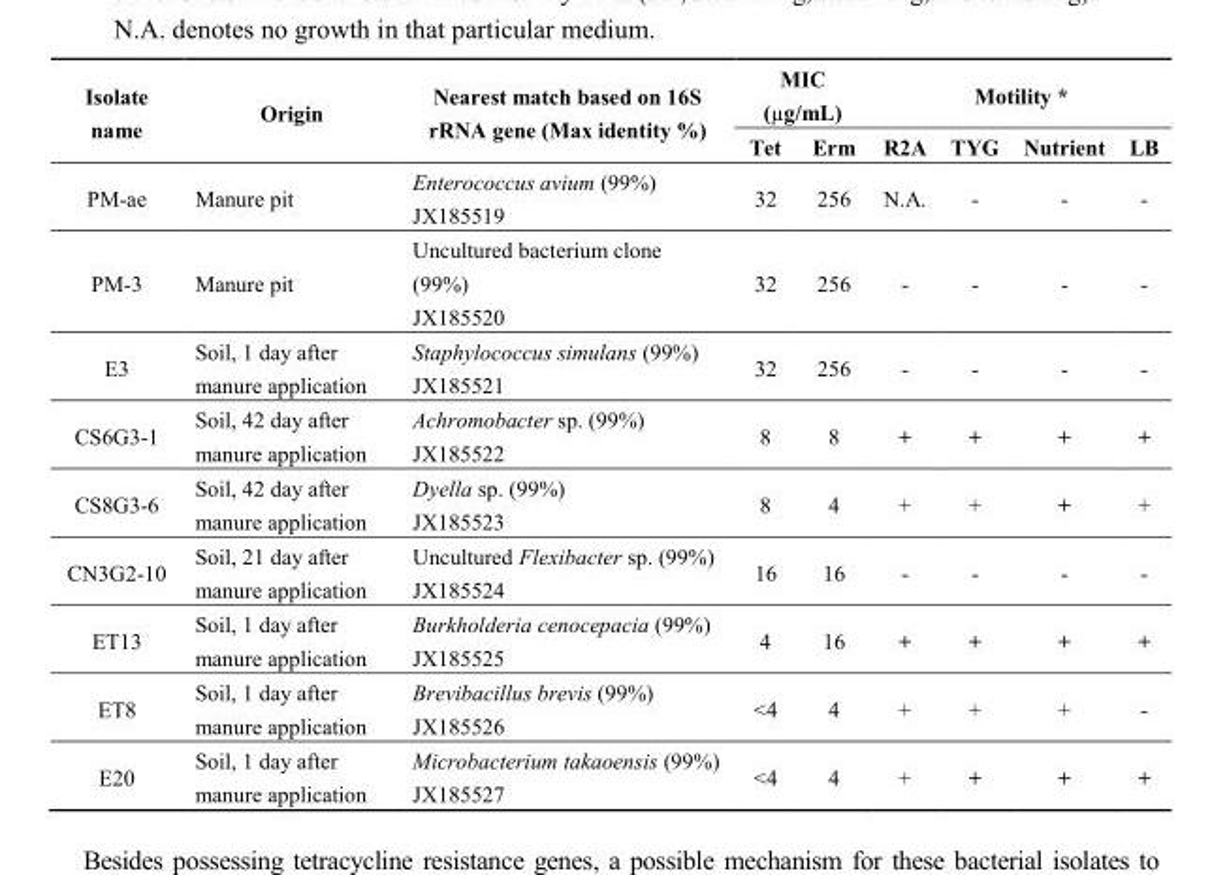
<table><thead><tr><td rowspan="2">Isolate name</td><td rowspan="2">Origin</td><td rowspan="2">Nearest match based on 16S rRNA gene (Max identity %)</td><td colspan="2">MIC (µg/mL)</td><td colspan="4">Motility *</td></tr><tr><td>Tet</td><td>Erm</td><td>R2A</td><td>TYG</td><td>Nutrient</td><td>LB</td></tr></thead><tbody><tr><td>PM-ae</td><td>Manure pit</td><td>Enterococcus avium (99%) JX185519</td><td>32</td><td>256</td><td>N.A.</td><td>-</td><td>-</td><td>-</td></tr><tr><td>PM-3</td><td>Manure pit</td><td>Uncultured bacterium clone (99%) JX185520</td><td>32</td><td>256</td><td>-</td><td>-</td><td>-</td><td>-</td></tr><tr><td>E3</td><td>Soil, 1 day after manure application</td><td>Staphylococcus simulans (99%) JX185521</td><td>32</td><td>256</td><td>-</td><td>-</td><td>-</td><td>-</td></tr><tr><td>CS6G3-1</td><td>Soil, 42 day after manure application</td><td>Achromobacter sp. (99%) JX185522</td><td>8</td><td>8</td><td>+</td><td>+</td><td>+</td><td>+</td></tr><tr><td>CS8G3-6</td><td>Soil, 42 day after manure application</td><td>Dyella sp. (99%) JX185523</td><td>8</td><td>4</td><td>+</td><td>+</td><td>+</td><td>+</td></tr><tr><td>CN3G2-10</td><td>Soil, 21 day after manure application</td><td>Uncultured Flexibacter sp. (99%) JX185524</td><td>16</td><td>16</td><td>-</td><td>-</td><td>-</td><td>-</td></tr><tr><td>ET13</td><td>Soil, 1 day after manure application</td><td>Burkholderia cenocepacia (99%) JX185525</td><td>4</td><td>16</td><td>+</td><td>+</td><td>+</td><td>+</td></tr><tr><td>ET8</td><td>Soil, 1 day after manure application</td><td>Brevibacillus brevis (99%) JX185526</td><td>&lt;4</td><td>4</td><td>+</td><td>+</td><td>+</td><td>-</td></tr><tr><td>E20</td><td>Soil, 1 day after manure application</td><td>Microbacterium takaoensis (99%) JX185527</td><td>&lt;4</td><td>4</td><td>+</td><td>+</td><td>+</td><td>+</td></tr></tbody></table>